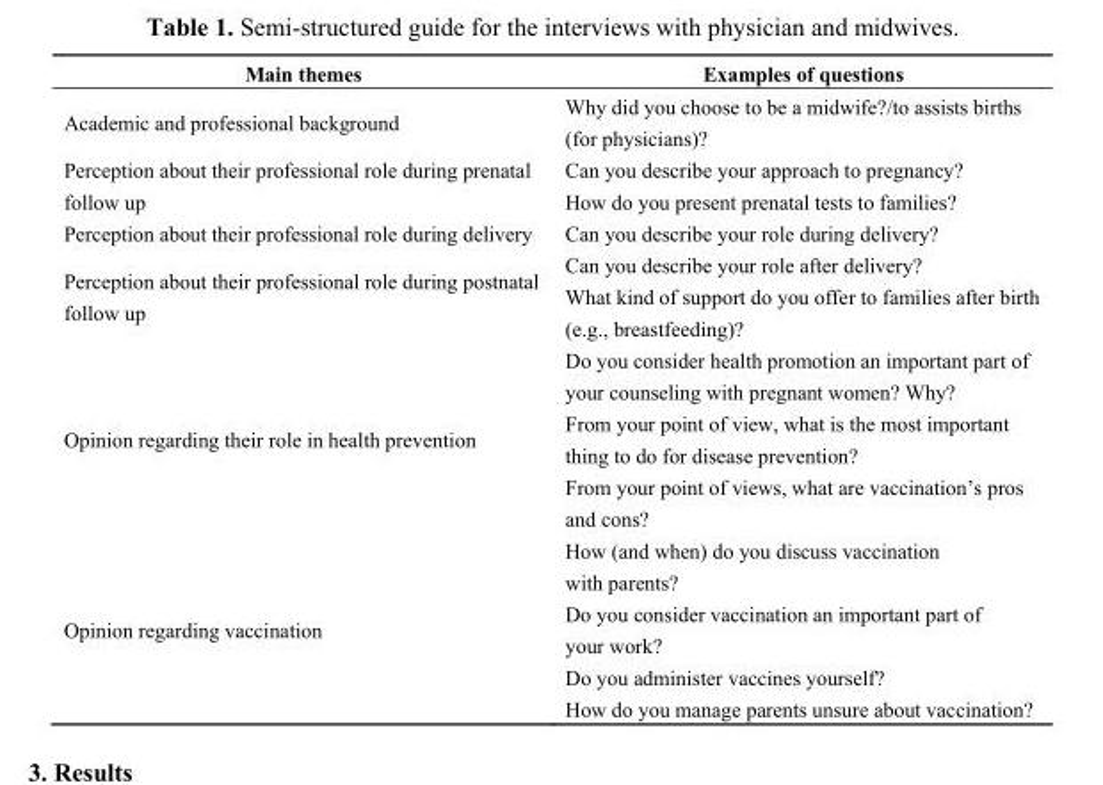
<table><thead><tr><td>Main themes</td><td>Examples of questions</td></tr></thead><tbody><tr><td>Academic and professional background</td><td>Why did you choose to be a midwife?/to assists births (for physicians)?</td></tr><tr><td>Perception about their professional role during prenatal follow up</td><td>Can you describe your approach to pregnancy? How do you present prenatal tests to families?</td></tr><tr><td>Perception about their professional role during delivery</td><td>Can you describe your role during delivery?</td></tr><tr><td>Perception about their professional role during postnatal follow up</td><td>Can you describe your role after delivery? What kind of support do you offer to families after birth (e.g., breastfeeding)?</td></tr><tr><td>Opinion regarding their role in health prevention</td><td>Do you consider health promotion an important part of your counseling with pregnant women? Why? From your point of view, what is the most important thing to do for disease prevention? From your point of views, what are vaccination’s pros and cons?</td></tr><tr><td>Opinion regarding vaccination</td><td>How (and when) do you discuss vaccination with parents? Do you consider vaccination an important part of your work? Do you administer vaccines yourself? How do you manage parents unsure about vaccination?</td></tr></tbody></table>